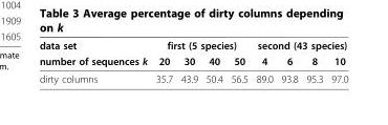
<table><thead><tr><td rowspan="2">data set number of sequences k</td><td colspan="4">first (5 species)</td><td colspan="4">second (43 species)</td></tr><tr><td>20</td><td>30</td><td>40</td><td>50</td><td>4</td><td>6</td><td>8</td><td>10</td></tr></thead><tbody><tr><td>dirty columns</td><td>35.7</td><td>43.9</td><td>50.4</td><td>56.5</td><td>89.0</td><td>93.8</td><td>95.3</td><td>97.0</td></tr></tbody></table>